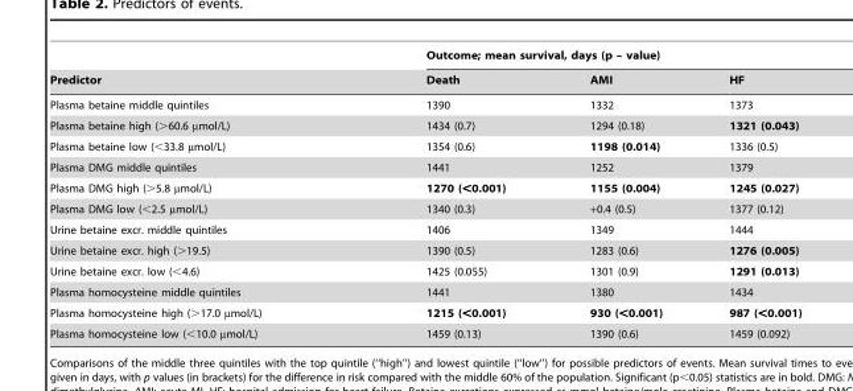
<table><thead><tr><td rowspan="2">Predictor</td><td colspan="3">Outcome; mean survival, days (p – value)</td></tr><tr><td>Death</td><td>AMI</td><td>HF</td></tr></thead><tbody><tr><td>Plasma betaine middle quintiles</td><td>1390</td><td>1332</td><td>1373</td></tr><tr><td>Plasma betaine high (&gt;60.6 µmol/L)</td><td>1434 (0.7)</td><td>1294 (0.18)</td><td>1321 (0.043)</td></tr><tr><td>Plasma betaine low (&lt;33.8 µmol/L)</td><td>1354 (0.6)</td><td>1198 (0.014)</td><td>1336 (0.5)</td></tr><tr><td>Plasma DMG middle quintiles</td><td>1441</td><td>1252</td><td>1379</td></tr><tr><td>Plasma DMG high (&gt;5.8 µmol/L)</td><td>1270 (&lt;0.001)</td><td>1155 (0.004)</td><td>1245 (0.027)</td></tr><tr><td>Plasma DMG low (&lt;2.5 µmol/L)</td><td>1340 (0.3)</td><td>+0.4 (0.5)</td><td>1377 (0.12)</td></tr><tr><td>Urine betaine excr. middle quintiles</td><td>1406</td><td>1349</td><td>1444</td></tr><tr><td>Urine betaine excr. high (&gt;19.5)</td><td>1390 (0.5)</td><td>1283 (0.6)</td><td>1276 (0.005)</td></tr><tr><td>Urine betaine excr. low (&lt;4.6)</td><td>1425 (0.055)</td><td>1301 (0.9)</td><td>1291 (0.013)</td></tr><tr><td>Plasma homocysteine middle quintiles</td><td>1441</td><td>1380</td><td>1434</td></tr><tr><td>Plasma homocysteine high (&gt;17.0 µmol/L)</td><td>1215 (&lt;0.001)</td><td>930 (&lt;0.001)</td><td>987 (&lt;0.001)</td></tr><tr><td>Plasma homocysteine low (&lt;10.0 µmol/L)</td><td>1459 (0.13)</td><td>1390 (0.6)</td><td>1459 (0.092)</td></tr></tbody></table>